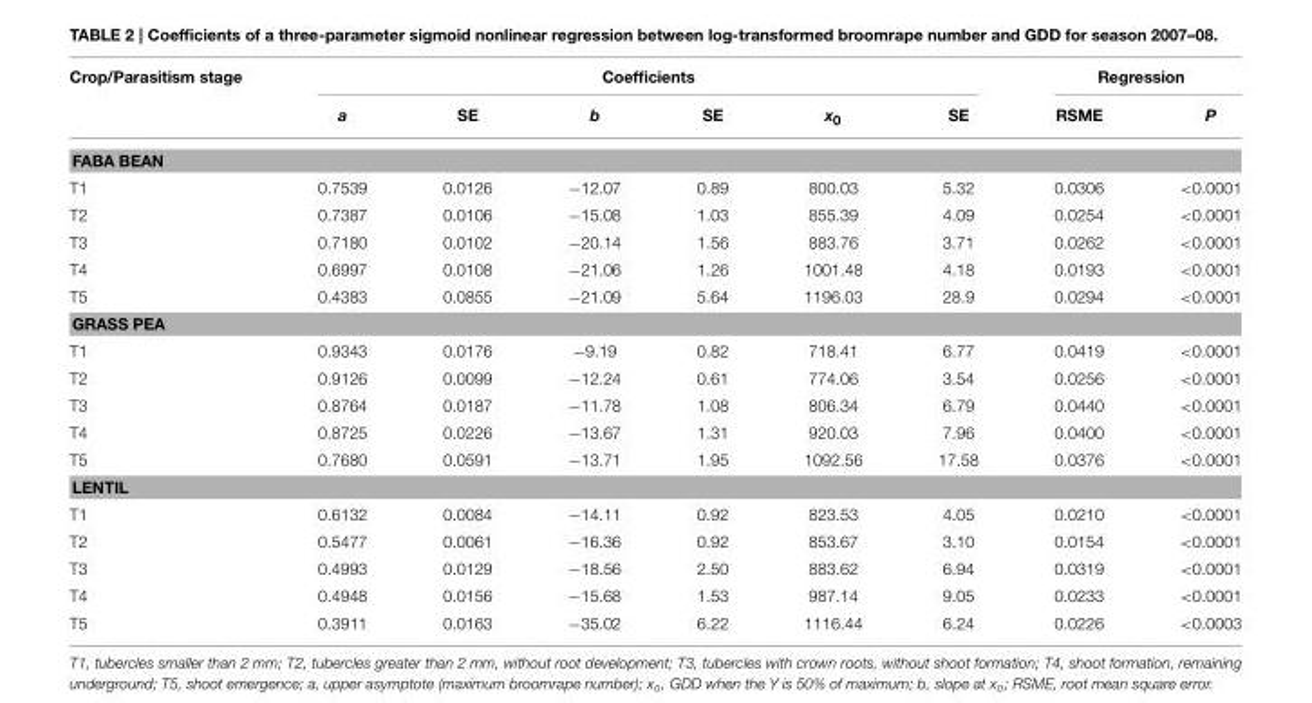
<table><thead><tr><td rowspan="2">Crop/Parasitism stage</td><td colspan="6">Coefficients</td><td colspan="2">Regression</td></tr><tr><td>a</td><td>SE</td><td>b</td><td>SE</td><td>x<sub>0</sub></td><td>SE</td><td>RSME</td><td>P</td></tr></thead><tbody><tr><td colspan="9">FABA BEAN</td></tr><tr><td>T1</td><td>0.7539</td><td>0.0126</td><td>−12.07</td><td>0.89</td><td>800.03</td><td>5.32</td><td>0.0306</td><td>&lt;0.0001</td></tr><tr><td>T2</td><td>0.7387</td><td>0.0106</td><td>−15.08</td><td>1.03</td><td>855.39</td><td>4.09</td><td>0.0254</td><td>&lt;0.0001</td></tr><tr><td>T3</td><td>0.7180</td><td>0.0102</td><td>−20.14</td><td>1.56</td><td>883.76</td><td>3.71</td><td>0.0262</td><td>&lt;0.0001</td></tr><tr><td>T4</td><td>0.6997</td><td>0.0108</td><td>−21.06</td><td>1.26</td><td>1001.48</td><td>4.18</td><td>0.0193</td><td>&lt;0.0001</td></tr><tr><td>T5</td><td>0.4383</td><td>0.0855</td><td>−21.09</td><td>5.64</td><td>1196.03</td><td>28.9</td><td>0.0294</td><td>&lt;0.0001</td></tr><tr><td colspan="9">GRASS PEA</td></tr><tr><td>T1</td><td>0.9343</td><td>0.0176</td><td>−9.19</td><td>0.82</td><td>718.41</td><td>6.77</td><td>0.0419</td><td>&lt;0.0001</td></tr><tr><td>T2</td><td>0.9126</td><td>0.0099</td><td>−12.24</td><td>0.61</td><td>774.06</td><td>3.54</td><td>0.0256</td><td>&lt;0.0001</td></tr><tr><td>T3</td><td>0.8764</td><td>0.0187</td><td>−11.78</td><td>1.08</td><td>806.34</td><td>6.79</td><td>0.0440</td><td>&lt;0.0001</td></tr><tr><td>T4</td><td>0.8725</td><td>0.0226</td><td>−13.67</td><td>1.31</td><td>920.03</td><td>7.96</td><td>0.0400</td><td>&lt;0.0001</td></tr><tr><td>T5</td><td>0.7680</td><td>0.0591</td><td>−13.71</td><td>1.95</td><td>1092.56</td><td>17.58</td><td>0.0376</td><td>&lt;0.0001</td></tr><tr><td colspan="9">LENTIL</td></tr><tr><td>T1</td><td>0.6132</td><td>0.0084</td><td>−14.11</td><td>0.92</td><td>823.53</td><td>4.05</td><td>0.0210</td><td>&lt;0.0001</td></tr><tr><td>T2</td><td>0.5477</td><td>0.0061</td><td>−16.36</td><td>0.92</td><td>853.67</td><td>3.10</td><td>0.0154</td><td>&lt;0.0001</td></tr><tr><td>T3</td><td>0.4993</td><td>0.0129</td><td>−18.56</td><td>2.50</td><td>883.62</td><td>6.94</td><td>0.0319</td><td>&lt;0.0001</td></tr><tr><td>T4</td><td>0.4948</td><td>0.0156</td><td>−15.68</td><td>1.53</td><td>987.14</td><td>9.05</td><td>0.0233</td><td>&lt;0.0001</td></tr><tr><td>T5</td><td>0.3911</td><td>0.0163</td><td>−35.02</td><td>6.22</td><td>1116.44</td><td>6.24</td><td>0.0226</td><td>&lt;0.0003</td></tr></tbody></table>